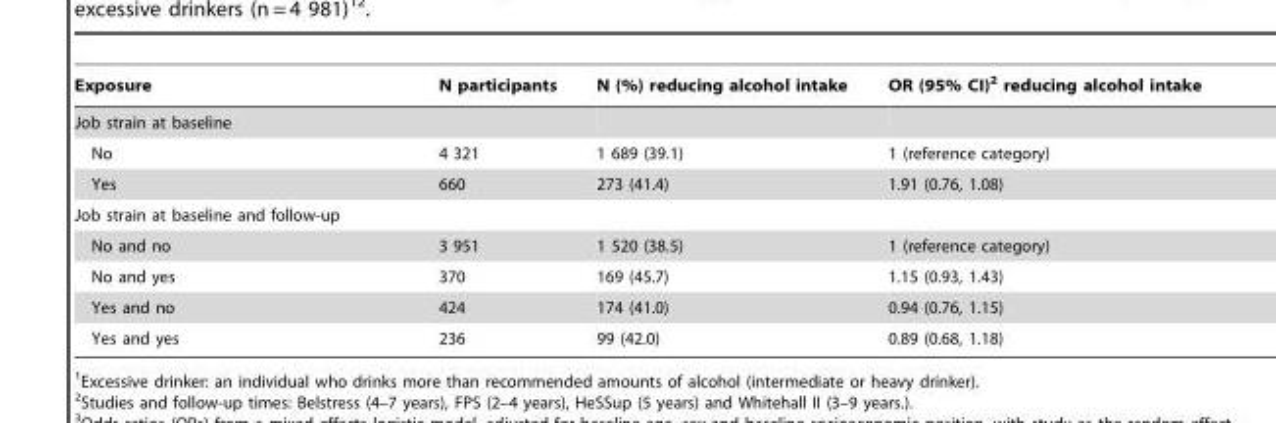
<table><thead><tr><td>Exposure</td><td>N participants</td><td>N (%) reducing alcohol intake</td><td>OR (95% CI)<sup>2</sup> reducing alcohol intake</td></tr></thead><tbody><tr><td colspan="4">Job strain at baseline</td></tr><tr><td>No</td><td>4 321</td><td>1 689 (39.1)</td><td>1 (reference category)</td></tr><tr><td>Yes</td><td>660</td><td>273 (41.4)</td><td>1.91 (0.76, 1.08)</td></tr><tr><td colspan="4">Job strain at baseline and follow-up</td></tr><tr><td>No and no</td><td>3 951</td><td>1 520 (38.5)</td><td>1 (reference category)</td></tr><tr><td>No and yes</td><td>370</td><td>169 (45.7)</td><td>1.15 (0.93, 1.43)</td></tr><tr><td>Yes and no</td><td>424</td><td>174 (41.0)</td><td>0.94 (0.76, 1.15)</td></tr><tr><td>Yes and yes</td><td>236</td><td>99 (42.0)</td><td>0.89 (0.68, 1.18)</td></tr></tbody></table>